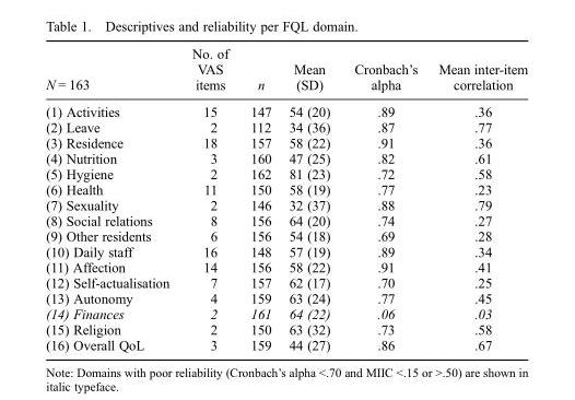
<table><thead><tr><td>N = 163</td><td>No. of VAS items</td><td>n</td><td>Mean (SD)</td><td>Cronbach’s alpha</td><td>Mean inter-item correlation</td></tr></thead><tbody><tr><td>(1) Activities</td><td>15</td><td>147</td><td>54 (20)</td><td>.89</td><td>.36</td></tr><tr><td>(2) Leave</td><td>2</td><td>112</td><td>34 (36)</td><td>.87</td><td>.77</td></tr><tr><td>(3) Residence</td><td>18</td><td>157</td><td>58 (22)</td><td>.91</td><td>.36</td></tr><tr><td>(4) Nutrition</td><td>3</td><td>160</td><td>47 (25)</td><td>.82</td><td>.61</td></tr><tr><td>(5) Hygiene</td><td>2</td><td>162</td><td>81 (23)</td><td>.72</td><td>.58</td></tr><tr><td>(6) Health</td><td>11</td><td>150</td><td>58 (19)</td><td>.77</td><td>.23</td></tr><tr><td>(7) Sexuality</td><td>2</td><td>146</td><td>32 (37)</td><td>.88</td><td>.79</td></tr><tr><td>(8) Social relations</td><td>8</td><td>156</td><td>64 (20)</td><td>.74</td><td>.27</td></tr><tr><td>(9) Other residents</td><td>6</td><td>156</td><td>54 (18)</td><td>.69</td><td>.28</td></tr><tr><td>(10) Daily staff</td><td>16</td><td>148</td><td>57 (19)</td><td>.89</td><td>.34</td></tr><tr><td>(11) Affection</td><td>14</td><td>156</td><td>58 (22)</td><td>.91</td><td>.41</td></tr><tr><td>(12) Self-actualisation</td><td>7</td><td>157</td><td>62 (17)</td><td>.70</td><td>.25</td></tr><tr><td>(13) Autonomy</td><td>4</td><td>159</td><td>63 (24)</td><td>.77</td><td>.45</td></tr><tr><td>(14) Finances</td><td>2</td><td>161</td><td>64 (22)</td><td>.06</td><td>.03</td></tr><tr><td>(15) Religion</td><td>2</td><td>150</td><td>63 (32)</td><td>.73</td><td>.58</td></tr><tr><td>(16) Overall QoL</td><td>3</td><td>159</td><td>44 (27)</td><td>.86</td><td>.67</td></tr></tbody></table>